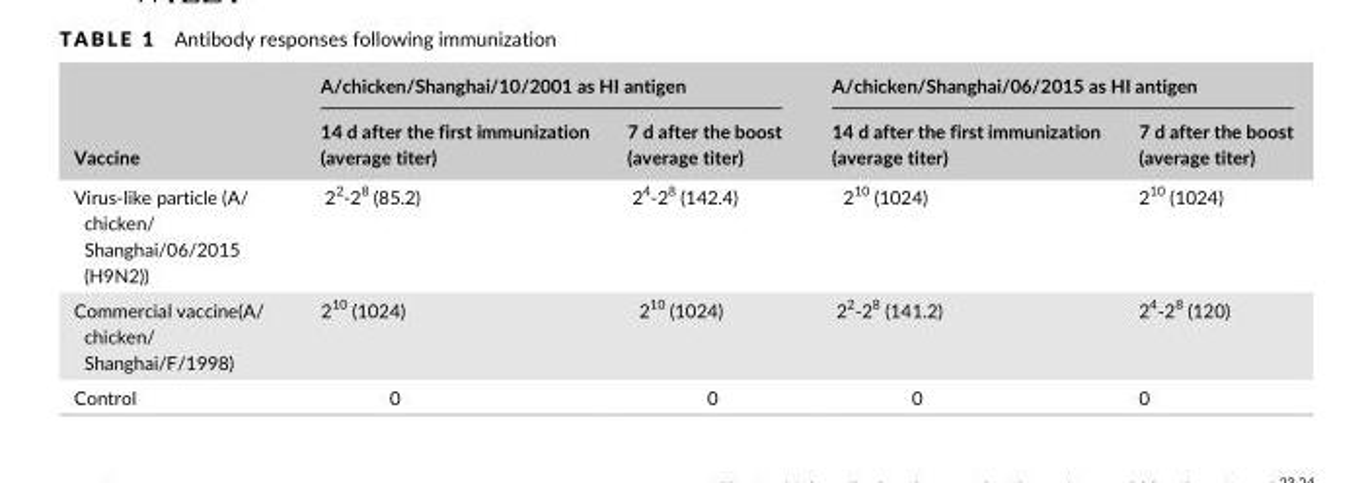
<table><thead><tr><td rowspan="2">Vaccine</td><td colspan="2">A/chicken/Shanghai/10/2001 as HI antigen</td><td colspan="2">A/chicken/Shanghai/06/2015 as HI antigen</td></tr><tr><td>14 d after the first immunization (average titer)</td><td>7 d after the boost (average titer)</td><td>14 d after the first immunization (average titer)</td><td>7 d after the boost (average titer)</td></tr></thead><tbody><tr><td>Virus- like particle (A/ chicken/ Shanghai/06/2015 (H9N2))</td><td>2<sup>2</sup>- 2<sup>8</sup> (85.2)</td><td>2<sup>4</sup>- 2<sup>8</sup> (142.4)</td><td>2<sup>10</sup> (1024)</td><td>2<sup>10</sup> (1024)</td></tr><tr><td>Commercial vaccine(A/ chicken/ Shanghai/F/1998)</td><td>2<sup>10</sup> (1024)</td><td>2<sup>10</sup> (1024)</td><td>2<sup>2</sup>- 2<sup>8</sup> (141.2)</td><td>2<sup>4</sup>- 2<sup>8</sup> (120)</td></tr><tr><td>Control</td><td>0</td><td>0</td><td>0</td><td>0</td></tr></tbody></table>